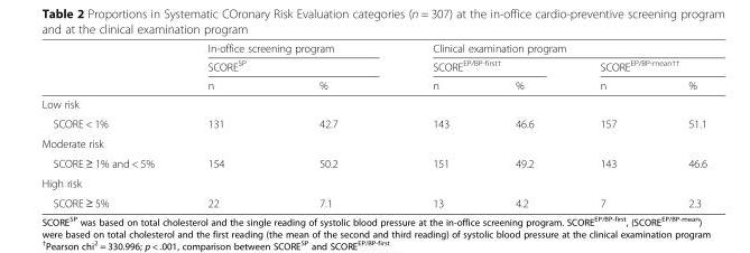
<table><thead><tr><td rowspan="3"></td><td rowspan="2" colspan="2">In-office screening program SCORE<sup>SP</sup></td><td colspan="4">Clinical examination program</td></tr><tr><td colspan="2">SCORE<sup>EP/BP-first†</sup></td><td colspan="2">SCORE<sup>EP/BP-mean††</sup></td></tr><tr><td>n</td><td>%</td><td>n</td><td>%</td><td>n</td><td>%</td></tr></thead><tbody><tr><td colspan="7">Low risk</td></tr><tr><td>SCORE &lt; 1%</td><td>131</td><td>42.7</td><td>143</td><td>46.6</td><td>157</td><td>51.1</td></tr><tr><td colspan="7">Moderate risk</td></tr><tr><td>SCORE ≥ 1% and &lt; 5%</td><td>154</td><td>50.2</td><td>151</td><td>49.2</td><td>143</td><td>46.6</td></tr><tr><td colspan="7">High risk</td></tr><tr><td>SCORE ≥ 5%</td><td>22</td><td>7.1</td><td>13</td><td>4.2</td><td>7</td><td>2.3</td></tr></tbody></table>